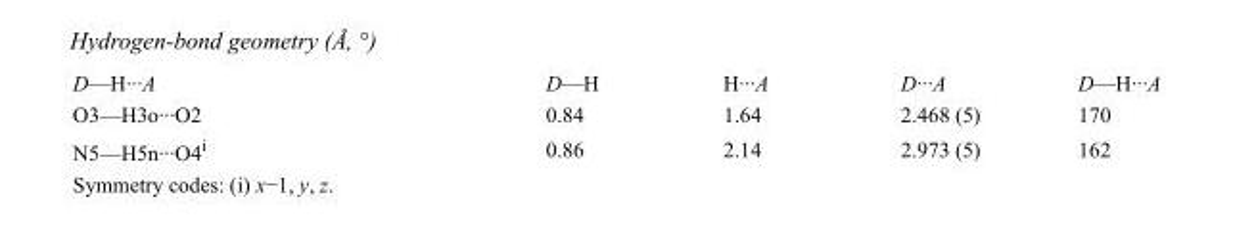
<table><tbody><tr><td>D—H···A</td><td>D—H</td><td>H···A</td><td>D···A</td><td>D—H···A</td></tr><tr><td>O3—H3o···O2</td><td>0.84</td><td>1.64</td><td>2.468 (5)</td><td>170</td></tr><tr><td>N5—H5n···O4<sup>i</sup></td><td>0.86</td><td>2.14</td><td>2.973 (5)</td><td>162</td></tr></tbody></table>